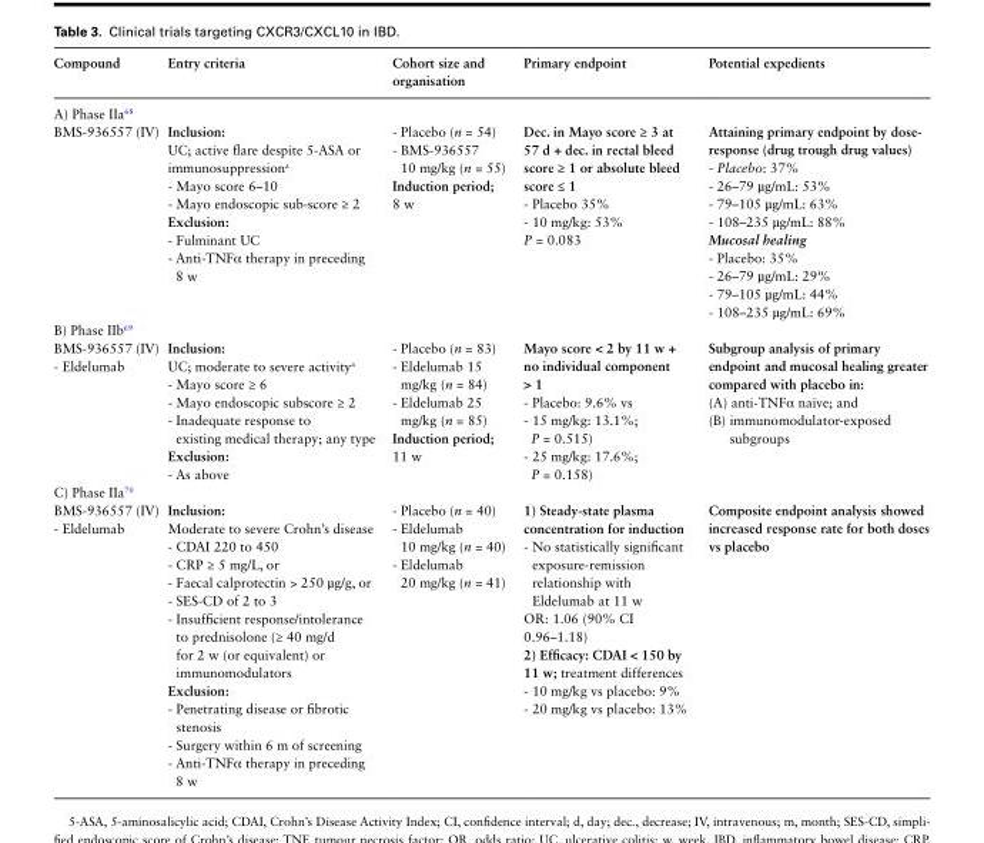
<table><thead><tr><td>Compound</td><td>Entry criteria</td><td>Cohort size and organisation</td><td>Primary endpoint</td><td>Potential expedients</td></tr></thead><tbody><tr><td colspan="5">A) Phase IIa<sup>68</sup></td></tr><tr><td>BMS-936557 (IV)</td><td>Inclusion: UC; active flare despite 5-ASA or immunosuppression<sup>a</sup> - Mayo score 6–10 - Mayo endoscopic sub-score ≥ 2 Exclusion: - Fulminant UC - Anti-TNFα therapy in preceding 8 w</td><td>- Placebo (n = 54) - BMS-936557 10 mg/kg (n = 55) Induction period; 8 w</td><td>Dec. in Mayo score ≥ 3 at 57 d + dec. in rectal bleed score ≥ 1 or absolute bleed score ≤ 1 - Placebo 35% - 10 mg/kg: 53% P = 0.083</td><td>Attaining primary endpoint by dose- response (drug trough drug values) - Placebo: 37% - 26–79 µg/mL: 53% - 79–105 µg/mL: 63% - 108–235 µg/mL: 88% Mucosal healing - Placebo: 35% - 26–79 µg/mL: 29% - 79–105 µg/mL: 44% - 108–235 µg/mL: 69%</td></tr><tr><td colspan="5">B) Phase IIb<sup>69</sup></td></tr><tr><td>BMS-936557 (IV) - Eldelumab</td><td>Inclusion: UC; moderate to severe activity<sup>a</sup> - Mayo score ≥ 6 - Mayo endoscopic subscore ≥ 2 - Inadequate response to existing medical therapy; any type Exclusion: - As above</td><td>- Placebo (n = 83) - Eldelumab 15 mg/kg (n = 84) - Eldelumab 25 mg/kg (n = 85) Induction period; 11 w</td><td>Mayo score &lt; 2 by 11 w + no individual component &gt; 1 - Placebo: 9.6% vs - 15 mg/kg: 13.1%; P = 0.515) - 25 mg/kg: 17.6%; P = 0.158)</td><td>Subgroup analysis of primary endpoint and mucosal healing greater compared with placebo in: (A) anti-TNFα naïve; and (B) immunomodulator-exposed subgroups</td></tr><tr><td colspan="5">C) Phase IIa<sup>70</sup></td></tr><tr><td>BMS-936557 (IV) - Eldelumab</td><td>Inclusion: Moderate to severe Crohn’s disease - CDAI 220 to 450 - CRP ≥ 5 mg/L, or - Faecal calprotectin &gt; 250 µg/g, or - SES-CD of 2 to 3 - Insufficient response/intolerance to prednisolone (≥ 40 mg/d for 2 w (or equivalent) or immunomodulators Exclusion: - Penetrating disease or fibrotic stenosis - Surgery within 6 m of screening - Anti-TNFα therapy in preceding 8 w</td><td>- Placebo (n = 40) - Eldelumab 10 mg/kg (n = 40) - Eldelumab 20 mg/kg (n = 41)</td><td>1) Steady-state plasma concentration for induction - No statistically significant exposure-remission relationship with Eldelumab at 11 w OR: 1.06 (90% CI 0.96–1.18) 2) Efficacy: CDAI &lt; 150 by 11 w; treatment differences - 10 mg/kg vs placebo: 9% - 20 mg/kg vs placebo: 13%</td><td>Composite endpoint analysis showed increased response rate for both doses vs placebo</td></tr></tbody></table>